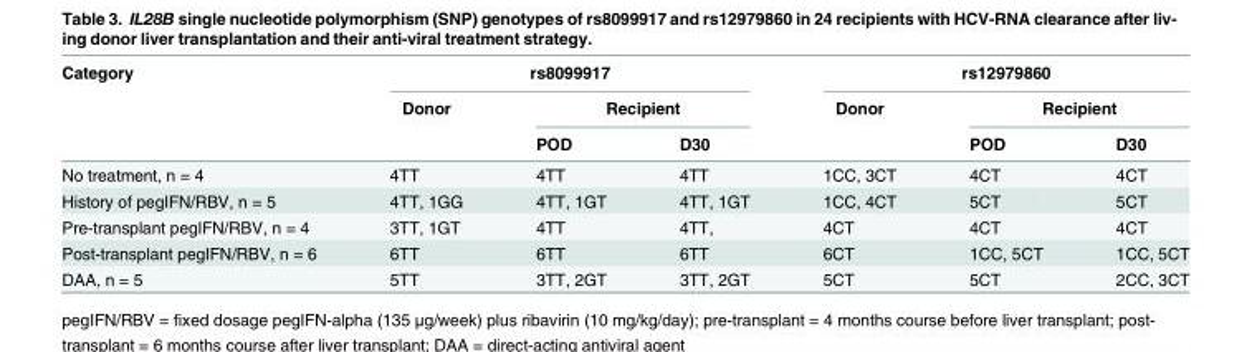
<table><thead><tr><td rowspan="3">Category</td><td colspan="3">rs8099917</td><td colspan="3">rs12979860</td></tr><tr><td rowspan="2">Donor</td><td colspan="2">Recipient</td><td rowspan="2">Donor</td><td colspan="2">Recipient</td></tr><tr><td>POD</td><td>D30</td><td>POD</td><td>D30</td></tr></thead><tbody><tr><td>No treatment, n = 4</td><td>4TT</td><td>4TT</td><td>4TT</td><td>1CC, 3CT</td><td>4CT</td><td>4CT</td></tr><tr><td>History of pegIFN/RBV, n = 5</td><td>4TT, 1GG</td><td>4TT, 1GT</td><td>4TT, 1GT</td><td>1CC, 4CT</td><td>5CT</td><td>5CT</td></tr><tr><td>Pre-transplant pegIFN/RBV, n = 4</td><td>3TT, 1GT</td><td>4TT</td><td>4TT,</td><td>4CT</td><td>4CT</td><td>4CT</td></tr><tr><td>Post-transplant pegIFN/RBV, n = 6</td><td>6TT</td><td>6TT</td><td>6TT</td><td>6CT</td><td>1CC, 5CT</td><td>1CC, 5CT</td></tr><tr><td>DAA, n = 5</td><td>5TT</td><td>3TT, 2GT</td><td>3TT, 2GT</td><td>5CT</td><td>5CT</td><td>2CC, 3CT</td></tr></tbody></table>